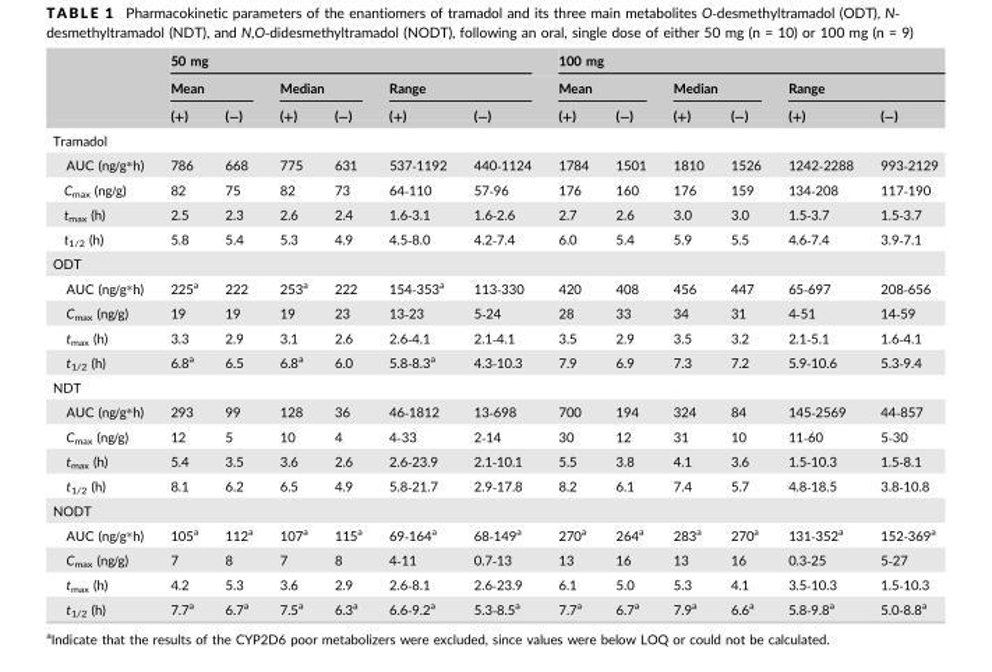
<table><thead><tr><td rowspan="3"></td><td colspan="6">50 mg</td><td colspan="6">100 mg</td></tr><tr><td colspan="2">Mean</td><td colspan="2">Median</td><td colspan="2">Range</td><td colspan="2">Mean</td><td colspan="2">Median</td><td colspan="2">Range</td></tr><tr><td>(+)</td><td>(−)</td><td>(+)</td><td>(−)</td><td>(+)</td><td>(−)</td><td>(+)</td><td>(−)</td><td>(+)</td><td>(−)</td><td>(+)</td><td>(−)</td></tr></thead><tbody><tr><td colspan="13">Tramadol</td></tr><tr><td>AUC (ng/g*h)</td><td>786</td><td>668</td><td>775</td><td>631</td><td>537‐1192</td><td>440‐1124</td><td>1784</td><td>1501</td><td>1810</td><td>1526</td><td>1242‐2288</td><td>993‐2129</td></tr><tr><td>C<sub>max</sub> (ng/g)</td><td>82</td><td>75</td><td>82</td><td>73</td><td>64‐110</td><td>57‐96</td><td>176</td><td>160</td><td>176</td><td>159</td><td>134‐208</td><td>117‐190</td></tr><tr><td>t<sub>max</sub> (h)</td><td>2.5</td><td>2.3</td><td>2.6</td><td>2.4</td><td>1.6‐3.1</td><td>1.6‐2.6</td><td>2.7</td><td>2.6</td><td>3.0</td><td>3.0</td><td>1.5‐3.7</td><td>1.5‐3.7</td></tr><tr><td>t<sub>1/2</sub> (h)</td><td>5.8</td><td>5.4</td><td>5.3</td><td>4.9</td><td>4.5‐8.0</td><td>4.2‐7.4</td><td>6.0</td><td>5.4</td><td>5.9</td><td>5.5</td><td>4.6‐7.4</td><td>3.9‐7.1</td></tr><tr><td colspan="13">ODT</td></tr><tr><td>AUC (ng/g*h)</td><td>225<sup>a</sup></td><td>222</td><td>253<sup>a</sup></td><td>222</td><td>154‐353<sup>a</sup></td><td>113‐330</td><td>420</td><td>408</td><td>456</td><td>447</td><td>65‐697</td><td>208‐656</td></tr><tr><td>C<sub>max</sub> (ng/g)</td><td>19</td><td>19</td><td>19</td><td>23</td><td>13‐23</td><td>5‐24</td><td>28</td><td>33</td><td>34</td><td>31</td><td>4‐51</td><td>14‐59</td></tr><tr><td>t<sub>max</sub> (h)</td><td>3.3</td><td>2.9</td><td>3.1</td><td>2.6</td><td>2.6‐4.1</td><td>2.1‐4.1</td><td>3.5</td><td>2.9</td><td>3.5</td><td>3.2</td><td>2.1‐5.1</td><td>1.6‐4.1</td></tr><tr><td>t<sub>1/2</sub> (h)</td><td>6.8<sup>a</sup></td><td>6.5</td><td>6.8<sup>a</sup></td><td>6.0</td><td>5.8‐8.3<sup>a</sup></td><td>4.3‐10.3</td><td>7.9</td><td>6.9</td><td>7.3</td><td>7.2</td><td>5.9‐10.6</td><td>5.3‐9.4</td></tr><tr><td colspan="13">NDT</td></tr><tr><td>AUC (ng/g*h)</td><td>293</td><td>99</td><td>128</td><td>36</td><td>46‐1812</td><td>13‐698</td><td>700</td><td>194</td><td>324</td><td>84</td><td>145‐2569</td><td>44‐857</td></tr><tr><td>C<sub>max</sub> (ng/g)</td><td>12</td><td>5</td><td>10</td><td>4</td><td>4‐33</td><td>2‐14</td><td>30</td><td>12</td><td>31</td><td>10</td><td>11‐60</td><td>5‐30</td></tr><tr><td>t<sub>max</sub> (h)</td><td>5.4</td><td>3.5</td><td>3.6</td><td>2.6</td><td>2.6‐23.9</td><td>2.1‐10.1</td><td>5.5</td><td>3.8</td><td>4.1</td><td>3.6</td><td>1.5‐10.3</td><td>1.5‐8.1</td></tr><tr><td>t<sub>1/2</sub> (h)</td><td>8.1</td><td>6.2</td><td>6.5</td><td>4.9</td><td>5.8‐21.7</td><td>2.9‐17.8</td><td>8.2</td><td>6.1</td><td>7.4</td><td>5.7</td><td>4.8‐18.5</td><td>3.8‐10.8</td></tr><tr><td colspan="13">NODT</td></tr><tr><td>AUC (ng/g*h)</td><td>105<sup>a</sup></td><td>112<sup>a</sup></td><td>107<sup>a</sup></td><td>115<sup>a</sup></td><td>69‐164<sup>a</sup></td><td>68‐149<sup>a</sup></td><td>270<sup>a</sup></td><td>264<sup>a</sup></td><td>283<sup>a</sup></td><td>270<sup>a</sup></td><td>131‐352<sup>a</sup></td><td>152‐369<sup>a</sup></td></tr><tr><td>C<sub>max</sub> (ng/g)</td><td>7</td><td>8</td><td>7</td><td>8</td><td>4‐11</td><td>0.7‐13</td><td>13</td><td>16</td><td>13</td><td>16</td><td>0.3‐25</td><td>5‐27</td></tr><tr><td>t<sub>max</sub> (h)</td><td>4.2</td><td>5.3</td><td>3.6</td><td>2.9</td><td>2.6‐8.1</td><td>2.6‐23.9</td><td>6.1</td><td>5.0</td><td>5.3</td><td>4.1</td><td>3.5‐10.3</td><td>1.5‐10.3</td></tr><tr><td>t<sub>1/2</sub> (h)</td><td>7.7<sup>a</sup></td><td>6.7<sup>a</sup></td><td>7.5<sup>a</sup></td><td>6.3<sup>a</sup></td><td>6.6‐9.2<sup>a</sup></td><td>5.3‐8.5<sup>a</sup></td><td>7.7<sup>a</sup></td><td>6.7<sup>a</sup></td><td>7.9<sup>a</sup></td><td>6.6<sup>a</sup></td><td>5.8‐9.8<sup>a</sup></td><td>5.0‐8.8<sup>a</sup></td></tr></tbody></table>